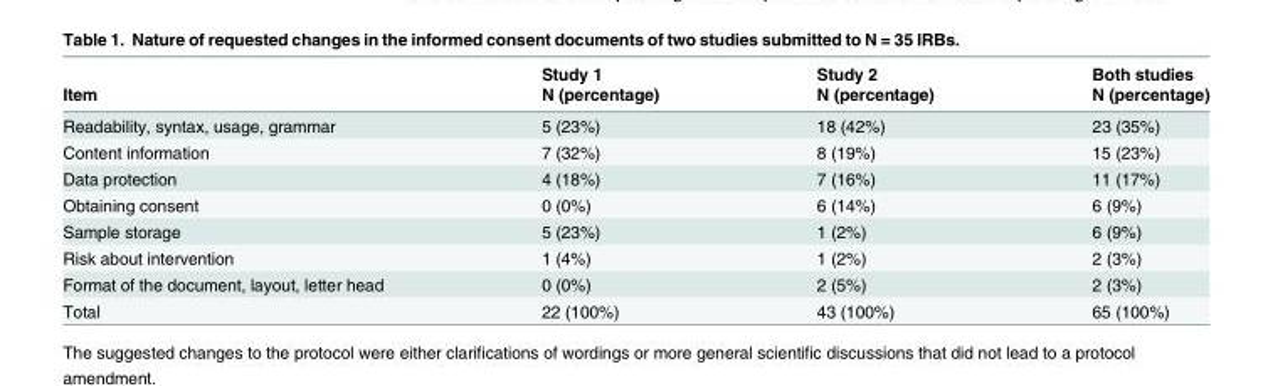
<table><thead><tr><td rowspan="2">Item</td><td rowspan="2">Study 1 N (percentage)</td><td rowspan="2">Study 2 N (percentage)</td><td rowspan="2">Both studies N (percentage)</td></tr><tr></tr></thead><tbody><tr><td>Readability, syntax, usage, grammar</td><td>5 (23%)</td><td>18 (42%)</td><td>23 (35%)</td></tr><tr><td>Content information</td><td>7 (32%)</td><td>8 (19%)</td><td>15 (23%)</td></tr><tr><td>Data protection</td><td>4 (18%)</td><td>7 (16%)</td><td>11 (17%)</td></tr><tr><td>Obtaining consent</td><td>0 (0%)</td><td>6 (14%)</td><td>6 (9%)</td></tr><tr><td>Sample storage</td><td>5 (23%)</td><td>1 (2%)</td><td>6 (9%)</td></tr><tr><td>Risk about intervention</td><td>1 (4%)</td><td>1 (2%)</td><td>2 (3%)</td></tr><tr><td>Format of the document, layout, letter head</td><td>0 (0%)</td><td>2 (5%)</td><td>2 (3%)</td></tr><tr><td>Total</td><td>22 (100%)</td><td>43 (100%)</td><td>65 (100%)</td></tr></tbody></table>